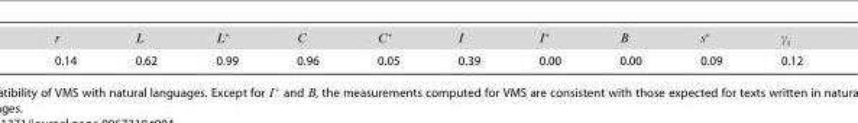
<table><tbody><tr><td>0.14</td><td>0.62</td><td>0.99</td><td>0.96</td><td>0.05</td><td>0.39</td><td>0.00</td><td>0.00</td><td>0.09</td><td>0.12</td></tr></tbody></table>